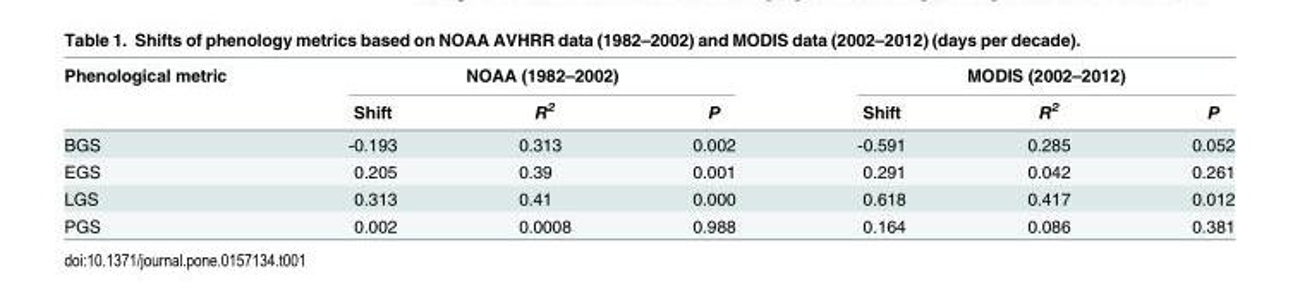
<table><thead><tr><td rowspan="2">Phenological metric</td><td colspan="3">NOAA (1982–2002)</td><td colspan="3">MODIS (2002–2012)</td></tr><tr><td>Shift</td><td>R<sup>2</sup></td><td>P</td><td>Shift</td><td>R<sup>2</sup></td><td>P</td></tr></thead><tbody><tr><td>BGS</td><td>-0.193</td><td>0.313</td><td>0.002</td><td>-0.591</td><td>0.285</td><td>0.052</td></tr><tr><td>EGS</td><td>0.205</td><td>0.39</td><td>0.001</td><td>0.291</td><td>0.042</td><td>0.261</td></tr><tr><td>LGS</td><td>0.313</td><td>0.41</td><td>0.000</td><td>0.618</td><td>0.417</td><td>0.012</td></tr><tr><td>PGS</td><td>0.002</td><td>0.0008</td><td>0.988</td><td>0.164</td><td>0.086</td><td>0.381</td></tr></tbody></table>